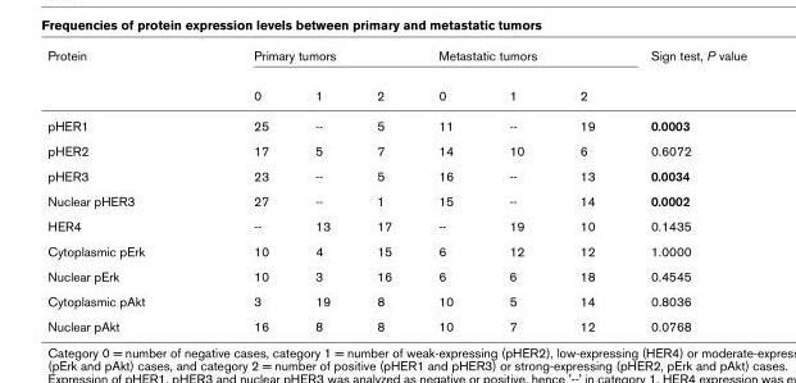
<table><thead><tr><td rowspan="2">Protein</td><td colspan="3">Primary tumors</td><td colspan="3">Metastatic tumors</td><td rowspan="2">Sign test, P value</td></tr><tr><td>0</td><td>1</td><td>2</td><td>0</td><td>1</td><td>2</td></tr></thead><tbody><tr><td>pHER1</td><td>25</td><td>--</td><td>5</td><td>11</td><td>--</td><td>19</td><td>0.0003</td></tr><tr><td>pHER2</td><td>17</td><td>5</td><td>7</td><td>14</td><td>10</td><td>6</td><td>0.6072</td></tr><tr><td>pHER3</td><td>23</td><td>--</td><td>5</td><td>16</td><td>--</td><td>13</td><td>0.0034</td></tr><tr><td>Nuclear pHER3</td><td>27</td><td>--</td><td>1</td><td>15</td><td>--</td><td>14</td><td>0.0002</td></tr><tr><td>HER4</td><td>--</td><td>13</td><td>17</td><td>--</td><td>19</td><td>10</td><td>0.1435</td></tr><tr><td>Cytoplasmic pErk</td><td>10</td><td>4</td><td>15</td><td>6</td><td>12</td><td>12</td><td>1.0000</td></tr><tr><td>Nuclear pErk</td><td>10</td><td>3</td><td>16</td><td>6</td><td>6</td><td>18</td><td>0.4545</td></tr><tr><td>Cytoplasmic pAkt</td><td>3</td><td>19</td><td>8</td><td>10</td><td>5</td><td>14</td><td>0.8036</td></tr><tr><td>Nuclear pAkt</td><td>16</td><td>8</td><td>8</td><td>10</td><td>7</td><td>12</td><td>0.0768</td></tr></tbody></table>